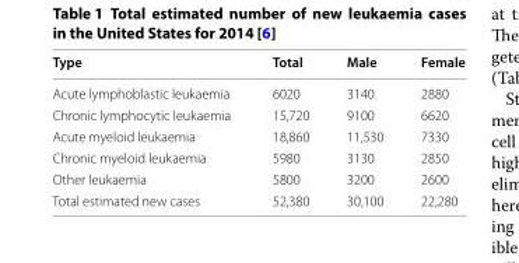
<table><thead><tr><td>Type</td><td>Total</td><td>Male</td><td>Female</td></tr></thead><tbody><tr><td>Acute lymphoblastic leukaemia</td><td>6020</td><td>3140</td><td>2880</td></tr><tr><td>Chronic lymphocytic leukaemia</td><td>15,720</td><td>9100</td><td>6620</td></tr><tr><td>Acute myeloid leukaemia</td><td>18,860</td><td>11,530</td><td>7330</td></tr><tr><td>Chronic myeloid leukaemia</td><td>5980</td><td>3130</td><td>2850</td></tr><tr><td>Other leukaemia</td><td>5800</td><td>3200</td><td>2600</td></tr><tr><td>Total estimated new cases</td><td>52,380</td><td>30,100</td><td>22,280</td></tr></tbody></table>